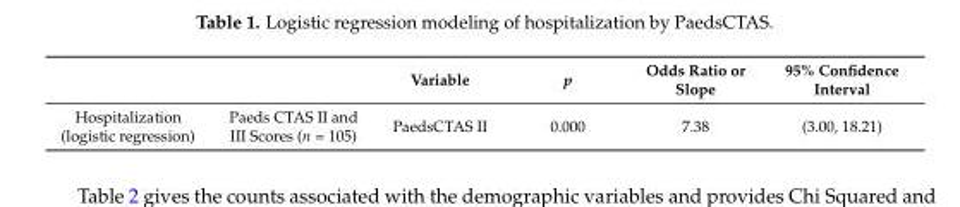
<table><thead><tr><td></td><td></td><td>Variable</td><td>p</td><td>Odds Ratio or Slope</td><td>95% Confidence Interval</td></tr></thead><tbody><tr><td>Hospitalization (logistic regression)</td><td>Paeds CTAS II and III Scores (n = 105)</td><td>PaedsCTAS II</td><td>0.000</td><td>7.38</td><td>(3.00, 18.21)</td></tr></tbody></table>